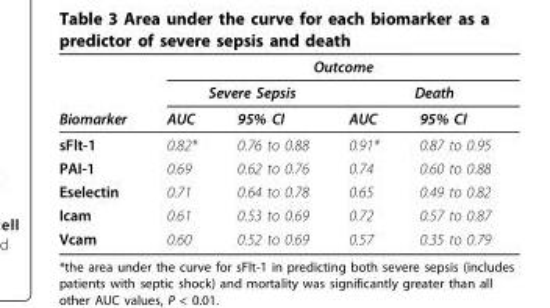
<table><thead><tr><td rowspan="3">Biomarker</td><td colspan="4">Outcome</td></tr><tr><td colspan="2">Severe Sepsis</td><td colspan="2">Death</td></tr><tr><td>AUC</td><td>95% CI</td><td>AUC</td><td>95% CI</td></tr></thead><tbody><tr><td>sFlt-1</td><td>0.82*</td><td>0.76 to 0.88</td><td>0.91*</td><td>0.87 to 0.95</td></tr><tr><td>PAI-1</td><td>0.69</td><td>0.62 to 0.76</td><td>0.74</td><td>0.60 to 0.88</td></tr><tr><td>Eselectin</td><td>0.71</td><td>0.64 to 0.78</td><td>0.65</td><td>0.49 to 0.82</td></tr><tr><td>Icam</td><td>0.61</td><td>0.53 to 0.69</td><td>0.72</td><td>0.57 to 0.87</td></tr><tr><td>Vcam</td><td>0.60</td><td>0.52 to 0.69</td><td>0.57</td><td>0.35 to 0.79</td></tr></tbody></table>